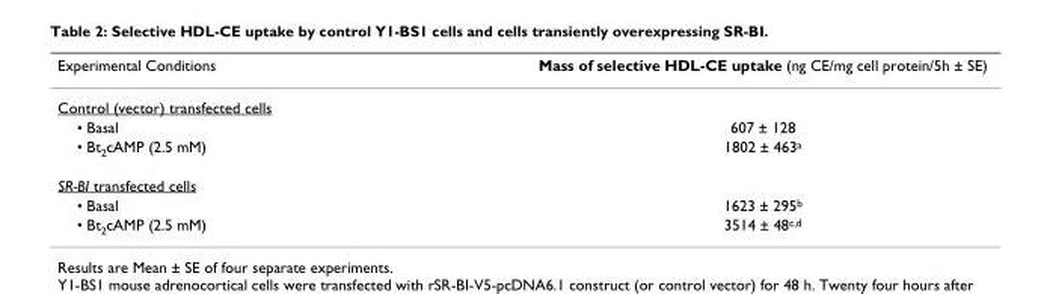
<table><thead><tr><td>Experimental Conditions</td><td>Mass of selective HDL-CE uptake (ng CE/mg cell protein/5h ± SE)</td></tr></thead><tbody><tr><td colspan="2">Control (vector) transfected cells</td></tr><tr><td>• Basal</td><td>607 ± 128</td></tr><tr><td>• Bt<sub>2</sub>cAMP (2.5 mM)</td><td>1802 ± 463<sup>a</sup></td></tr><tr><td colspan="2">SR-BI transfected cells</td></tr><tr><td>• Basal</td><td>1623 ± 295<sup>b</sup></td></tr><tr><td>• Bt<sub>2</sub>cAMP (2.5 mM)</td><td>3514 ± 48<sup>c,d</sup></td></tr></tbody></table>